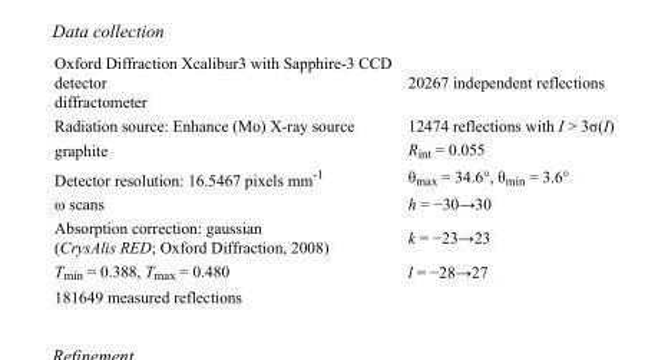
<table><tbody><tr><td>Oxford Diffraction Xcalibur3 with Sapphire-3 CCD detector diffractometer</td><td>20267 independent reflections</td></tr><tr><td>Radiation source: Enhance (Mo) X-ray source</td><td>12474 reflections with I &gt; 3σ(I)</td></tr><tr><td>graphite</td><td>R<sub>int</sub> = 0.055</td></tr><tr><td>Detector resolution: 16.5467 pixels mm<sup>-1</sup></td><td>θ<sub>max</sub> = 34.6°, θ<sub>min</sub> = 3.6°</td></tr><tr><td>ω scans</td><td>h = −30→30</td></tr><tr><td>Absorption correction: gaussian (CrysAlis RED; Oxford Diffraction, 2008)</td><td>k = −23→23</td></tr><tr><td>T<sub>min</sub> = 0.388, T<sub>max</sub> = 0.480</td><td>l = −28→27</td></tr><tr><td>181649 measured reflections</td><td></td></tr></tbody></table>